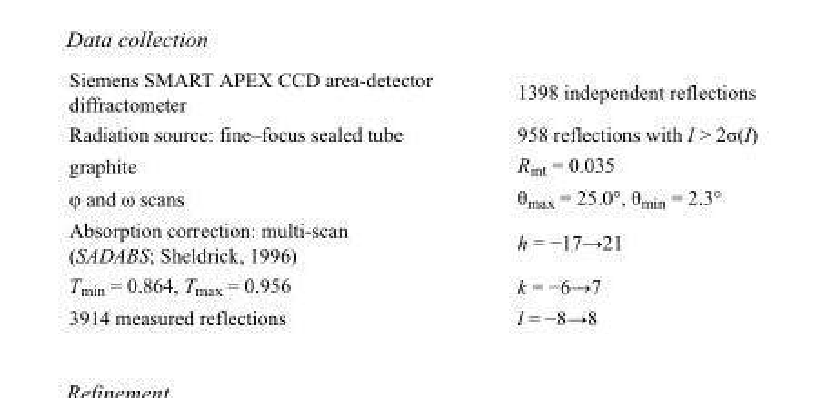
<table><tbody><tr><td>Siemens SMART APEX CCD area-detector diffractometer</td><td>1398 independent reflections</td></tr><tr><td>Radiation source: fine–focus sealed tube</td><td>958 reflections with I &gt; 2σ(I)</td></tr><tr><td>graphite</td><td>R<sub>int</sub> = 0.035</td></tr><tr><td>φ and ω scans</td><td>θ<sub>max</sub> = 25.0°, θ<sub>min</sub> = 2.3°</td></tr><tr><td>Absorption correction: multi-scan (SADABS; Sheldrick, 1996)</td><td>h = −17→21</td></tr><tr><td>T<sub>min</sub> = 0.864, T<sub>max</sub> = 0.956</td><td>k = −6→7</td></tr><tr><td>3914 measured reflections</td><td>l = −8→8</td></tr></tbody></table>